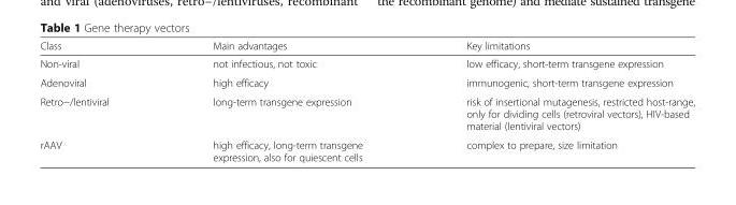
<table><thead><tr><td>Class</td><td>Main advantages</td><td>Key limitations</td></tr></thead><tbody><tr><td>Non-viral</td><td>not infectious, not toxic</td><td>low efficacy, short-term transgene expression</td></tr><tr><td>Adenoviral</td><td>high efficacy</td><td>immunogenic, short-term transgene expression</td></tr><tr><td>Retro−/lentiviral</td><td>long-term transgene expression</td><td>risk of insertional mutagenesis, restricted host-range, only for dividing cells (retroviral vectors), HIV-based material (lentiviral vectors)</td></tr><tr><td>rAAV</td><td>high efficacy, long-term transgene expression, also for quiescent cells</td><td>complex to prepare, size limitation</td></tr></tbody></table>